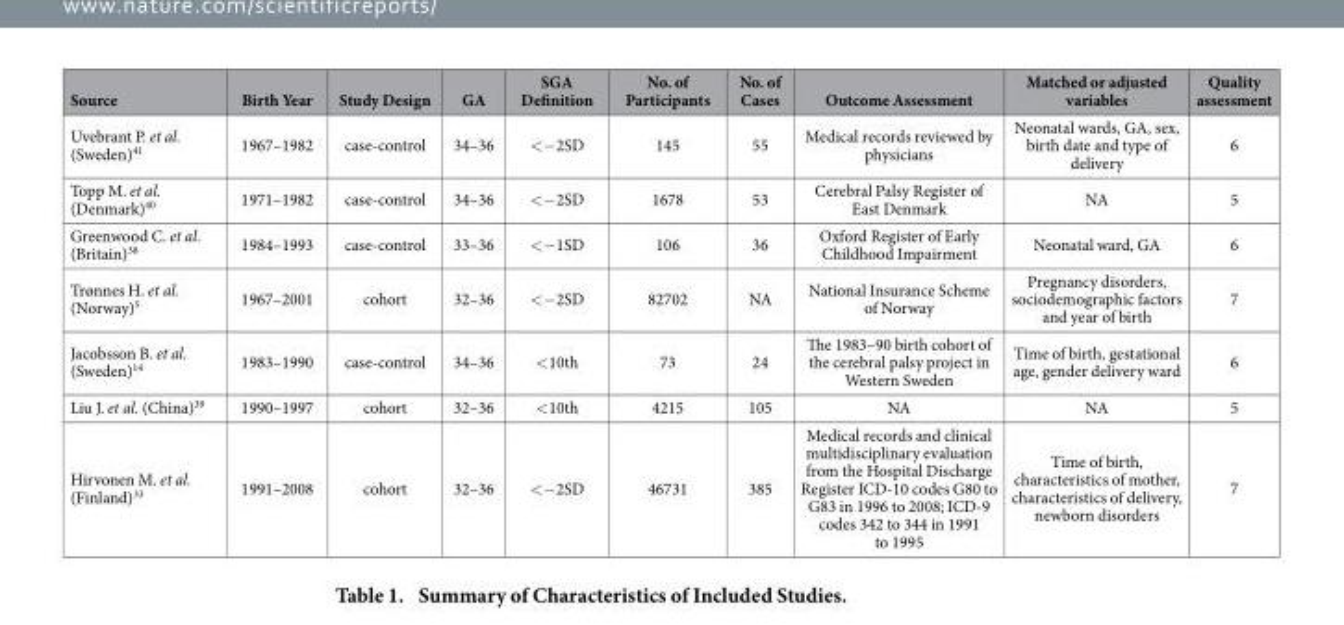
<table><thead><tr><td>Source</td><td>Birth Year</td><td>Study Design</td><td>GA</td><td>SGA Definition</td><td>No. of Participants</td><td>No. of Cases</td><td>Outcome Assessment</td><td>Matched or adjusted variables</td><td>Quality assessment</td></tr></thead><tbody><tr><td>Uvebrant P. et al. (Sweden)<sup>41</sup></td><td>1967–1982</td><td>case-control</td><td>34–36</td><td>&lt; − 2SD</td><td>145</td><td>55</td><td>Medical records reviewed by physicians</td><td>Neonatal wards, GA, sex, birth date and type of delivery</td><td>6</td></tr><tr><td>Topp M. et al. (Denmark)<sup>40</sup></td><td>1971–1982</td><td>case-control</td><td>34–36</td><td>&lt; − 2SD</td><td>1678</td><td>53</td><td>Cerebral Palsy Register of East Denmark</td><td>NA</td><td>5</td></tr><tr><td>Greenwood C. et al. (Britain)<sup>38</sup></td><td>1984–1993</td><td>case-control</td><td>33–36</td><td>&lt; − 1SD</td><td>106</td><td>36</td><td>Oxford Register of Early Childhood Impairment</td><td>Neonatal ward, GA</td><td>6</td></tr><tr><td>Trønnes H. et al. (Norway)<sup>5</sup></td><td>1967–2001</td><td>cohort</td><td>32–36</td><td>&lt; − 2SD</td><td>82702</td><td>NA</td><td>National Insurance Scheme of Norway</td><td>Pregnancy disorders, sociodemographic factors and year of birth</td><td>7</td></tr><tr><td>Jacobsson B. et al. (Sweden)<sup>14</sup></td><td>1983–1990</td><td>case-control</td><td>34–36</td><td>&lt; 10th</td><td>73</td><td>24</td><td>The 1983–90 birth cohort of the cerebral palsy project in Western Sweden</td><td>Time of birth, gestational age, gender delivery ward</td><td>6</td></tr><tr><td>Liu J. et al. (China)<sup>39</sup></td><td>1990–1997</td><td>cohort</td><td>32–36</td><td>&lt; 10th</td><td>4215</td><td>105</td><td>NA</td><td>NA</td><td>5</td></tr><tr><td>Hirvonen M. et al. (Finland)<sup>33</sup></td><td>1991–2008</td><td>cohort</td><td>32–36</td><td>&lt; − 2SD</td><td>46731</td><td>385</td><td>Medical records and clinical multidisciplinary evaluation from the Hospital Discharge Register ICD-10 codes G80 to G83 in 1996 to 2008; ICD-9 codes 342 to 344 in 1991 to 1995</td><td>Time of birth, characteristics of mother, characteristics of delivery, newborn disorders</td><td>7</td></tr></tbody></table>